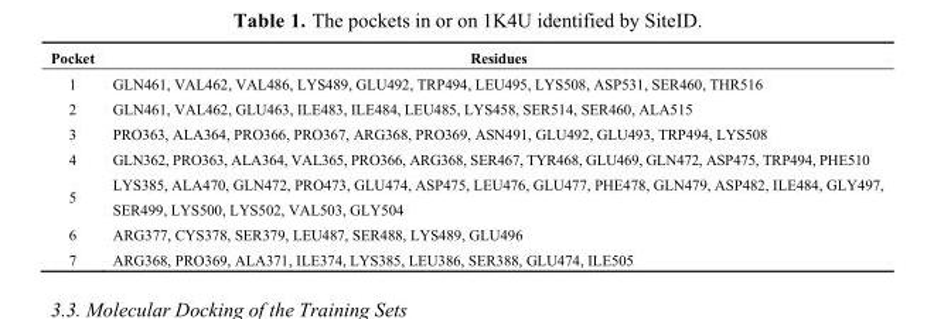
<table><thead><tr><td>Pocket</td><td>Residues</td></tr></thead><tbody><tr><td>1</td><td>GLN461, VAL462, VAL486, LYS489, GLU492, TRP494, LEU495, LYS508, ASP531, SER460, THR516</td></tr><tr><td>2</td><td>GLN461, VAL462, GLU463, ILE483, ILE484, LEU485, LYS458, SER514, SER460, ALA515</td></tr><tr><td>3</td><td>PRO363, ALA364, PRO366, PRO367, ARG368, PRO369, ASN491, GLU492, GLU493, TRP494, LYS508</td></tr><tr><td>4</td><td>GLN362, PRO363, ALA364, VAL365, PRO366, ARG368, SER467, TYR468, GLU469, GLN472, ASP475, TRP494, PHE510</td></tr><tr><td>5</td><td>LYS385, ALA470, GLN472, PRO473, GLU474, ASP475, LEU476, GLU477, PHE478, GLN479, ASP482, ILE484, GLY497, SER499, LYS500, LYS502, VAL503, GLY504</td></tr><tr><td>6</td><td>ARG377, CYS378, SER379, LEU487, SER488, LYS489, GLU496</td></tr><tr><td>7</td><td>ARG368, PRO369, ALA371, ILE374, LYS385, LEU386, SER388, GLU474, ILE505</td></tr></tbody></table>